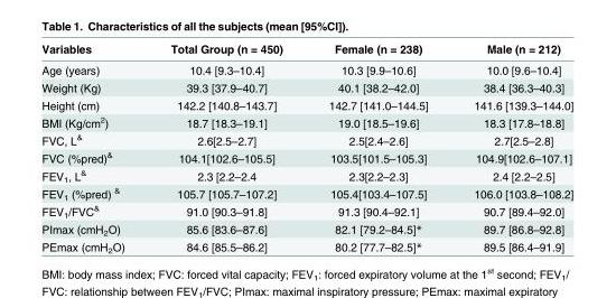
<table><thead><tr><td>Variables</td><td>Total Group (n = 450)</td><td>Female (n = 238)</td><td>Male (n = 212)</td></tr></thead><tbody><tr><td>Age (years)</td><td>10.4 [9.3–10.4]</td><td>10.3 [9.9–10.6]</td><td>10.0 [9.6–10.4]</td></tr><tr><td>Weight (Kg)</td><td>39.3 [37.9–40.7]</td><td>40.1 [38.2–42.0]</td><td>38.4 [36.3–40.3]</td></tr><tr><td>Height (cm)</td><td>142.2 [140.8–143.7]</td><td>142.7 [141.0–144.5]</td><td>141.6 [139.3–144.0]</td></tr><tr><td>BMI (Kg/cm<sup>2</sup>)</td><td>18.7 [18.3–19.1]</td><td>19.0 [18.5–19.6]</td><td>18.3 [17.8–18.8]</td></tr><tr><td>FVC, L<sup>&amp;</sup></td><td>2.6[2.5–2.7]</td><td>2.5[2.4–2.6]</td><td>2.7[2.5–2.8]</td></tr><tr><td>FVC (%pred)<sup>&amp;</sup></td><td>104.1[102.6–105.5]</td><td>103.5[101.5–105.3]</td><td>104.9[102.6–107.1]</td></tr><tr><td>FEV<sub>1</sub>, L<sup>&amp;</sup></td><td>2.3 [2.2–2.4</td><td>2.3[2.2–2.3]</td><td>2.4 [2.2–2.5]</td></tr><tr><td>FEV<sub>1</sub> (%pred) <sup>&amp;</sup></td><td>105.7 [105.7–107.2]</td><td>105.4[103.4–107.5]</td><td>106.0 [103.8–108.2]</td></tr><tr><td>FEV<sub>1</sub>/FVC<sup>&amp;</sup></td><td>91.0 [90.3–91.8]</td><td>91.3 [90.4–92.1]</td><td>90.7 [89.4–92.0]</td></tr><tr><td>PImax (cmH<sub>2</sub>O)</td><td>85.6 [83.6–87.6]</td><td>82.1 [79.2–84.5]*</td><td>89.7 [86.8–92.8]</td></tr><tr><td>PEmax (cmH<sub>2</sub>O)</td><td>84.6 [85.5–86.2]</td><td>80.2 [77.7–82.5]*</td><td>89.5 [86.4–91.9]</td></tr></tbody></table>